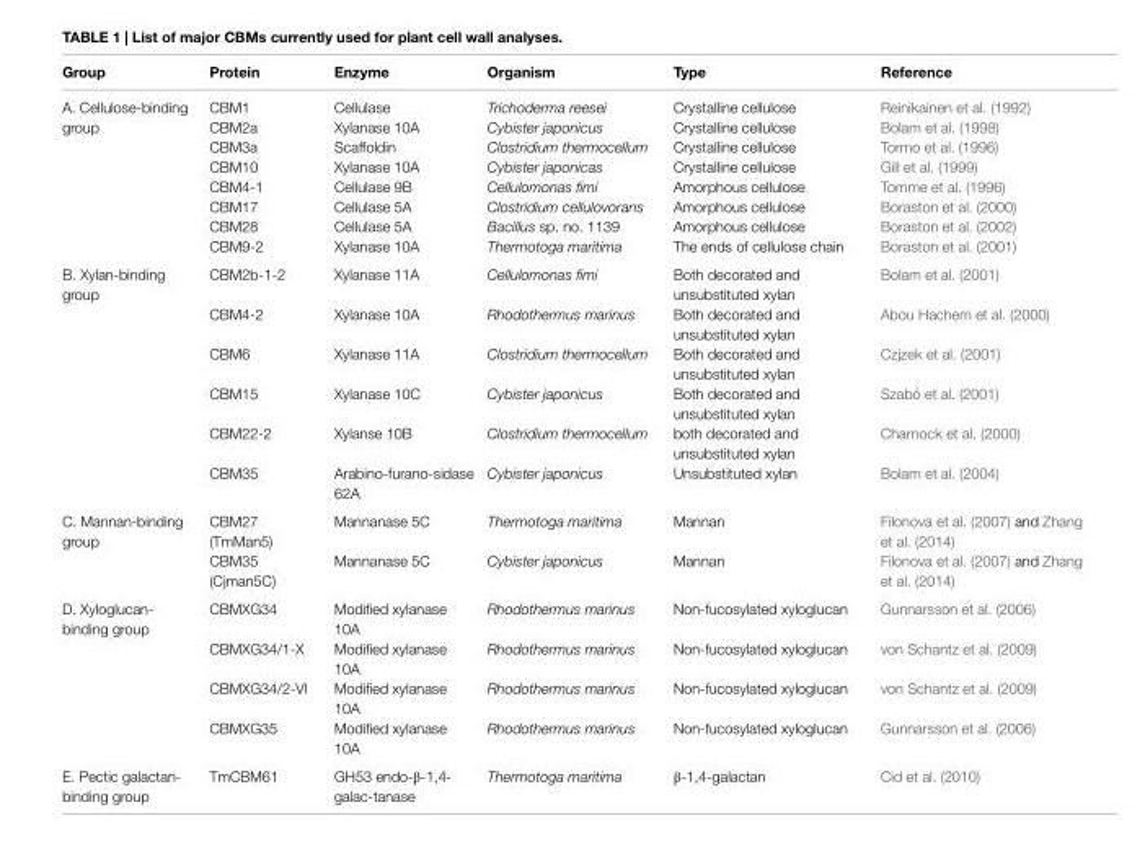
<table><thead><tr><td>Group</td><td>Protein</td><td>enzyme</td><td>Organism</td><td>Type</td><td>Reference</td></tr></thead><tbody><tr><td rowspan="8">A. Cellulose-binding group</td><td>CBM1</td><td>Cellulase</td><td>Trichoderma reesei</td><td>Crystalline cellulose</td><td>Reinikainen et al. (1992)</td></tr><tr><td>CBM2a</td><td>Xylanase 10A</td><td>Cybister japonicus</td><td>Crystalline cellulose</td><td>Bolam et al. (1998)</td></tr><tr><td>CBM3a</td><td>Scaffoldin</td><td>Clostridium thermocellum</td><td>Crystalline cellulose</td><td>Tormo et al. (1996)</td></tr><tr><td>CBM10</td><td>Xylanase 10A</td><td>Cybister japonicas</td><td>Crystalline cellulose</td><td>Gill et al. (1999)</td></tr><tr><td>CBM4-1</td><td>Cellulase 9B</td><td>Cellulomonas fimi</td><td>Amorphous cellulose</td><td>Tomme et al. (1996)</td></tr><tr><td>CBM17</td><td>Cellulase 5A</td><td>Clostridium cellulovorans</td><td>Amorphous cellulose</td><td>Boraston et al. (2000)</td></tr><tr><td>CBM28</td><td>Cellulase 5A</td><td>Bacillus sp. no. 1139</td><td>Amorphous cellulose</td><td>Boraston et al. (2002)</td></tr><tr><td>CBM9-2</td><td>Xylanase 10A</td><td>Thermotoga maritima</td><td>The ends of cellulose chain</td><td>Boraston et al. (2001)</td></tr><tr><td rowspan="6">B. Xylan-binding group</td><td>CBM2b-1-2</td><td>Xylanase 11A</td><td>Cellulomonas fimi</td><td>Both decorated and unsubstituted xylan</td><td>Bolam et al. (2001)</td></tr><tr><td>CBM4-2</td><td>Xylanase 10A</td><td>Rhodothermus marinus</td><td>Both decorated and unsubstituted xylan</td><td>Abou Hachem et al. (2000)</td></tr><tr><td>CBM6</td><td>Xylanase 11A</td><td>Clostridium thermocellum</td><td>Both decorated and unsubstituted xylan</td><td>Czjzek et al. (2001)</td></tr><tr><td>CBM15</td><td>Xylanase 10C</td><td>Cybister japonicus</td><td>Both decorated and unsubstituted xylan</td><td>Szabó et al. (2001)</td></tr><tr><td>CBM22-2</td><td>Xylanse 10B</td><td>Clostridium thermocellum</td><td>both decorated and unsubstituted xylan</td><td>Charnock et al. (2000)</td></tr><tr><td>CBM35</td><td>Arabino-furano-sidase 62A</td><td>Cybister japonicus</td><td>Unsubstituted xylan</td><td>Bolam et al. (2004)</td></tr><tr><td rowspan="2">C. Mannan-binding group</td><td>CBM27 (TmMan5)</td><td>Mannanase 5C</td><td>Thermotoga maritima</td><td>Mannan</td><td>Filonova et al. (2007) and Zhang et al. (2014)</td></tr><tr><td>CBM35 (Cjman5C)</td><td>Mannanase 5C</td><td>Cybister japonicus</td><td>Mannan</td><td>Filonova et al. (2007) and Zhang et al. (2014)</td></tr><tr><td rowspan="4">D. Xyloglucan- binding group</td><td>CBMXG34</td><td>Modified xylanase 10A</td><td>Rhodothermus marinus</td><td>Non-fucosylated xyloglucan</td><td>Gunnarsson et al. (2006)</td></tr><tr><td>CBMXG34/1-X</td><td>Modified xylanase 10A</td><td>Rhodothermus marinus</td><td>Non-fucosylated xyloglucan</td><td>von Schantz et al. (2009)</td></tr><tr><td>CBMXG34/2-VI</td><td>Modified xylanase 10A</td><td>Rhodothermus marinus</td><td>Non-fucosylated xyloglucan</td><td>von Schantz et al. (2009)</td></tr><tr><td>CBMXG35</td><td>Modified xylanase 10A</td><td>Rhodothermus marinus</td><td>Non-fucosylated xyloglucan</td><td>Gunnarsson et al. (2006)</td></tr><tr><td>E. Pectic galactan- binding group</td><td>TmCBM61</td><td>GH53 endo-β-1,4- galac-tanase</td><td>Thermotoga maritima</td><td>β-1,4-galactan</td><td>Cid et al. (2010)</td></tr></tbody></table>